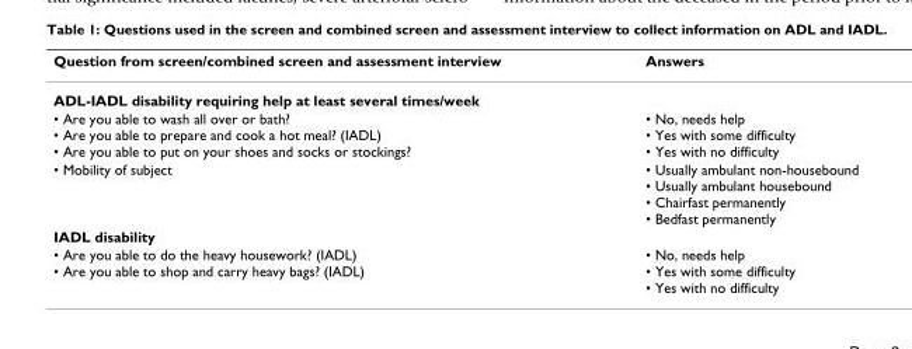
<table><thead><tr><td>Question from screen/combined screen and assessment interview</td><td>Answers</td></tr></thead><tbody><tr><td colspan="2">ADL-IADL disability requiring help at least several times/week</td></tr><tr><td>• Are you able to wash all over or bath? • Are you able to prepare and cook a hot meal? (IADL) • Are you able to put on your shoes and socks or stockings?</td><td>• No, needs help • Yes with some difficulty • Yes with no difficulty</td></tr><tr><td>• Mobility of subject</td><td>• Usually ambulant non-housebound • Usually ambulant housebound • Chairfast permanently • Bedfast permanently</td></tr><tr><td colspan="2">IADL disability</td></tr><tr><td>• Are you able to do the heavy housework? (IADL) • Are you able to shop and carry heavy bags? (IADL)</td><td>• No, needs help • Yes with some difficulty • Yes with no difficulty</td></tr></tbody></table>